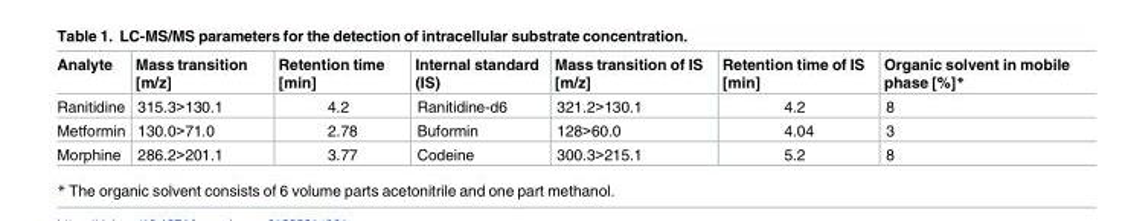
<table><thead><tr><td>Analyte</td><td>Mass transition [m/z]</td><td>Retention time [min]</td><td>Internal standard (IS)</td><td>Mass transition of IS [m/z]</td><td>Retention time of IS [min]</td><td>Organic solvent in mobile phase [%]*</td></tr></thead><tbody><tr><td>Ranitidine</td><td>315.3&gt;130.1</td><td>4.2</td><td>Ranitidine-d6</td><td>321.2&gt;130.1</td><td>4.2</td><td>8</td></tr><tr><td>Metformin</td><td>130.0&gt;71.0</td><td>2.78</td><td>Buformin</td><td>128&gt;60.0</td><td>4.04</td><td>3</td></tr><tr><td>Morphine</td><td>286.2&gt;201.1</td><td>3.77</td><td>Codeine</td><td>300.3&gt;215.1</td><td>5.2</td><td>8</td></tr></tbody></table>